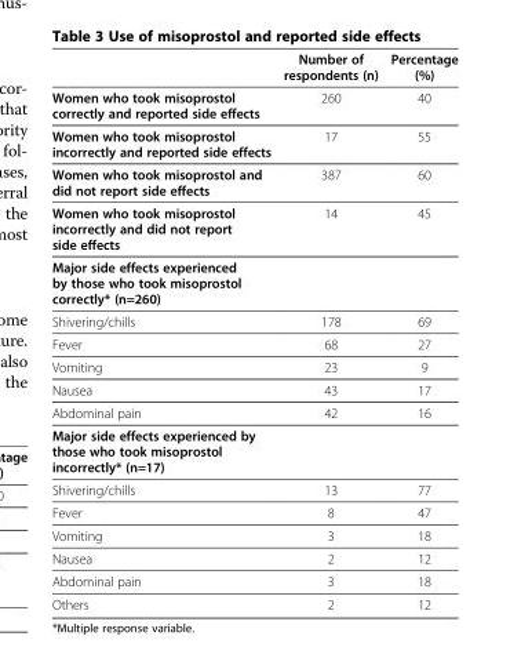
<table><thead><tr><td></td><td>Number of respondents (n)</td><td>Percentage (%)</td></tr></thead><tbody><tr><td>Women who took misoprostol correctly and reported side effects</td><td>260</td><td>40</td></tr><tr><td>Women who took misoprostol incorrectly and reported side effects</td><td>17</td><td>55</td></tr><tr><td>Women who took misoprostol and did not report side effects</td><td>387</td><td>60</td></tr><tr><td>Women who took misoprostol incorrectly and did not report side effects</td><td>14</td><td>45</td></tr><tr><td colspan="3">Major side effects experienced by those who took misoprostol correctly* (n=260)</td></tr><tr><td>Shivering/chills</td><td>178</td><td>69</td></tr><tr><td>Fever</td><td>68</td><td>27</td></tr><tr><td>Vomiting</td><td>23</td><td>9</td></tr><tr><td>Nausea</td><td>43</td><td>17</td></tr><tr><td>Abdominal pain</td><td>42</td><td>16</td></tr><tr><td colspan="3">Major side effects experienced by those who took misoprostol incorrectly* (n=17)</td></tr><tr><td>Shivering/chills</td><td>13</td><td>77</td></tr><tr><td>Fever</td><td>8</td><td>47</td></tr><tr><td>Vomiting</td><td>3</td><td>18</td></tr><tr><td>Nausea</td><td>2</td><td>12</td></tr><tr><td>Abdominal pain</td><td>3</td><td>18</td></tr><tr><td>Others</td><td>2</td><td>12</td></tr></tbody></table>